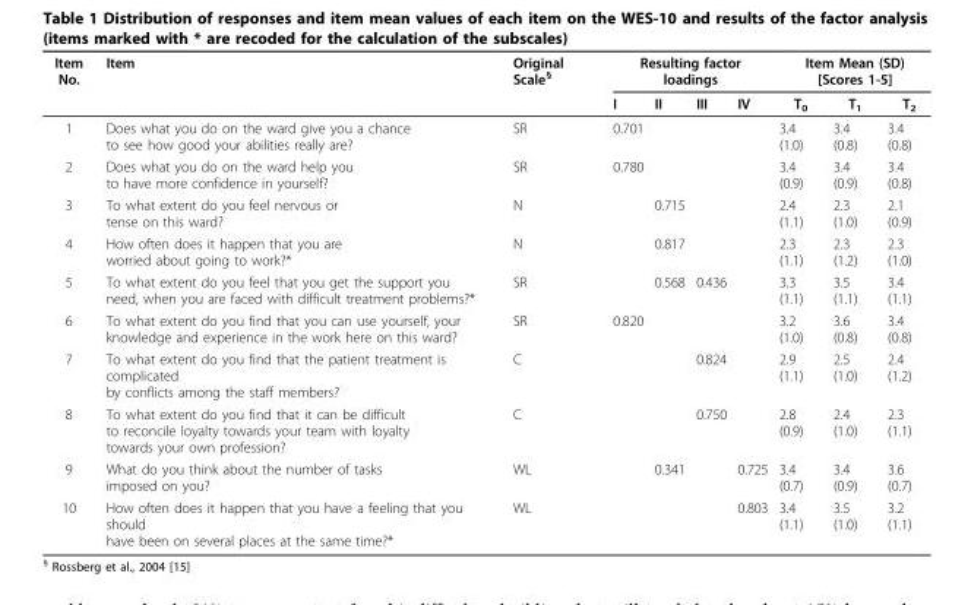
<table><thead><tr><td rowspan="2">Item No.</td><td rowspan="2">Item</td><td rowspan="2">Original Scale<sup>§</sup></td><td colspan="4">Resulting factor loadings</td><td colspan="3">Item Mean (SD) [Scores 1-5]</td></tr><tr><td>I</td><td>II</td><td>III</td><td>IV</td><td>T<sub>0</sub></td><td>T<sub>1</sub></td><td>T<sub>2</sub></td></tr></thead><tbody><tr><td>1</td><td>Does what you do on the ward give you a chance to see how good your abilities really are?</td><td>SR</td><td>0.701</td><td></td><td></td><td></td><td>3.4 (1.0)</td><td>3.4 (0.8)</td><td>3.4 (0.8)</td></tr><tr><td>2</td><td>Does what you do on the ward help you to have more confidence in yourself?</td><td>SR</td><td>0.780</td><td></td><td></td><td></td><td>3.4 (0.9)</td><td>3.4 (0.9)</td><td>3.4 (0.8)</td></tr><tr><td>3</td><td>To what extent do you feel nervous or tense on this ward?</td><td>N</td><td></td><td>0.715</td><td></td><td></td><td>2.4 (1.1)</td><td>2.3 (1.0)</td><td>2.1 (0.9)</td></tr><tr><td>4</td><td>How often does it happen that you are worried about going to work?*</td><td>N</td><td></td><td>0.817</td><td></td><td></td><td>2.3 (1.1)</td><td>2.3 (1.2)</td><td>2.3 (1.0)</td></tr><tr><td>5</td><td>To what extent do you feel that you get the support you need, when you are faced with difficult treatment problems?*</td><td>SR</td><td></td><td>0.568</td><td>0.436</td><td></td><td>3.3 (1.1)</td><td>3.5 (1.1)</td><td>3.4 (1.1)</td></tr><tr><td>6</td><td>To what extent do you find that you can use yourself, your knowledge and experience in the work here on this ward?</td><td>SR</td><td>0.820</td><td></td><td></td><td></td><td>3.2 (1.0)</td><td>3.6 (0.8)</td><td>3.4 (0.8)</td></tr><tr><td>7</td><td>To what extent do you find that the patient treatment is complicated by conflicts among the staff members?</td><td>C</td><td></td><td></td><td>0.824</td><td></td><td>2.9 (1.1)</td><td>2.5 (1.0)</td><td>2.4 (1.2)</td></tr><tr><td>8</td><td>To what extent do you find that it can be difficult to reconcile loyalty towards your team with loyalty towards your own profession?</td><td>C</td><td></td><td></td><td>0.750</td><td></td><td>2.8 (0.9)</td><td>2.4 (1.0)</td><td>2.3 (1.1)</td></tr><tr><td>9</td><td>What do you think about the number of tasks imposed on you?</td><td>WL</td><td></td><td>0.341</td><td></td><td>0.725</td><td>3.4 (0.7)</td><td>3.4 (0.9)</td><td>3.6 (0.7)</td></tr><tr><td>10</td><td>How often does it happen that you have a feeling that you should have been on several places at the same time?*</td><td>WL</td><td></td><td></td><td></td><td>0.803</td><td>3.4 (1.1)</td><td>3.5 (1.0)</td><td>3.2 (1.1)</td></tr></tbody></table>